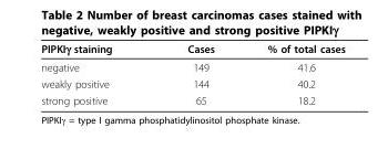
<table><thead><tr><td>PIPKIγ staining</td><td>Cases</td><td>% of total cases</td></tr></thead><tbody><tr><td>negative</td><td>149</td><td>41.6</td></tr><tr><td>weakly positive</td><td>144</td><td>40.2</td></tr><tr><td>strong positive</td><td>65</td><td>18.2</td></tr></tbody></table>